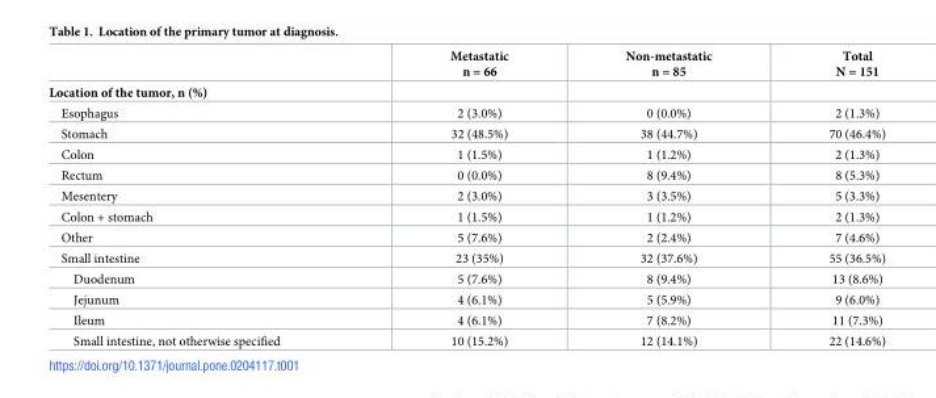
<table><thead><tr><td></td><td>Metastatic n = 66</td><td>Non-metastatic n = 85</td><td>Total N = 151</td></tr></thead><tbody><tr><td colspan="4">Location of the tumor, n (%)</td></tr><tr><td>Esophagus</td><td>2 (3.0%)</td><td>0 (0.0%)</td><td>2 (1.3%)</td></tr><tr><td>Stomach</td><td>32 (48.5%)</td><td>38 (44.7%)</td><td>70 (46.4%)</td></tr><tr><td>Colon</td><td>1 (1.5%)</td><td>1 (1.2%)</td><td>2 (1.3%)</td></tr><tr><td>Rectum</td><td>0 (0.0%)</td><td>8 (9.4%)</td><td>8 (5.3%)</td></tr><tr><td>Mesentery</td><td>2 (3.0%)</td><td>3 (3.5%)</td><td>5 (3.3%)</td></tr><tr><td>Colon + stomach</td><td>1 (1.5%)</td><td>1 (1.2%)</td><td>2 (1.3%)</td></tr><tr><td>Other</td><td>5 (7.6%)</td><td>2 (2.4%)</td><td>7 (4.6%)</td></tr><tr><td>Small intestine</td><td>23 (35%)</td><td>32 (37.6%)</td><td>55 (36.5%)</td></tr><tr><td>Duodenum</td><td>5 (7.6%)</td><td>8 (9.4%)</td><td>13 (8.6%)</td></tr><tr><td>Jejunum</td><td>4 (6.1%)</td><td>5 (5.9%)</td><td>9 (6.0%)</td></tr><tr><td>Ileum</td><td>4 (6.1%)</td><td>7 (8.2%)</td><td>11 (7.3%)</td></tr><tr><td>Small intestine, not otherwise specified</td><td>10 (15.2%)</td><td>12 (14.1%)</td><td>22 (14.6%)</td></tr></tbody></table>